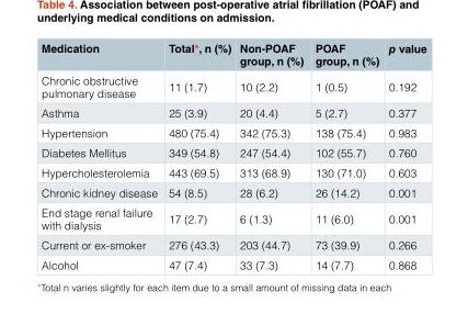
<table><thead><tr><td>Medication</td><td>Total*, n (%)</td><td>Non-POAF group, n (%)</td><td>POAF group, n (%)</td><td>p value</td></tr></thead><tbody><tr><td>Chronic obstructive pulmonary disease</td><td>11 (1.7)</td><td>10 (2.2)</td><td>1 (0.5)</td><td>0.192</td></tr><tr><td>Asthma</td><td>25 (3.9)</td><td>20 (4.4)</td><td>5 (2.7)</td><td>0.377</td></tr><tr><td>Hypertension</td><td>480 (75.4)</td><td>342 (75.3)</td><td>138 (75.4)</td><td>0.983</td></tr><tr><td>Diabetes Mellitus</td><td>349 (54.8)</td><td>247 (54.4)</td><td>102 (55.7)</td><td>0.760</td></tr><tr><td>Hypercholesterolemia</td><td>443 (69.5)</td><td>313 (68.9)</td><td>130 (71.0)</td><td>0.603</td></tr><tr><td>Chronic kidney disease</td><td>54 (8.5)</td><td>28 (6.2)</td><td>26 (14.2)</td><td>0.001</td></tr><tr><td>End stage renal failure with dialysis</td><td>17 (2.7)</td><td>6 (1.3)</td><td>11 (6.0)</td><td>0.001</td></tr><tr><td>Current or ex-smoker</td><td>276 (43.3)</td><td>203 (44.7)</td><td>73 (39.9)</td><td>0.266</td></tr><tr><td>Alcohol</td><td>47 (7.4)</td><td>33 (7.3)</td><td>14 (7.7)</td><td>0.868</td></tr></tbody></table>